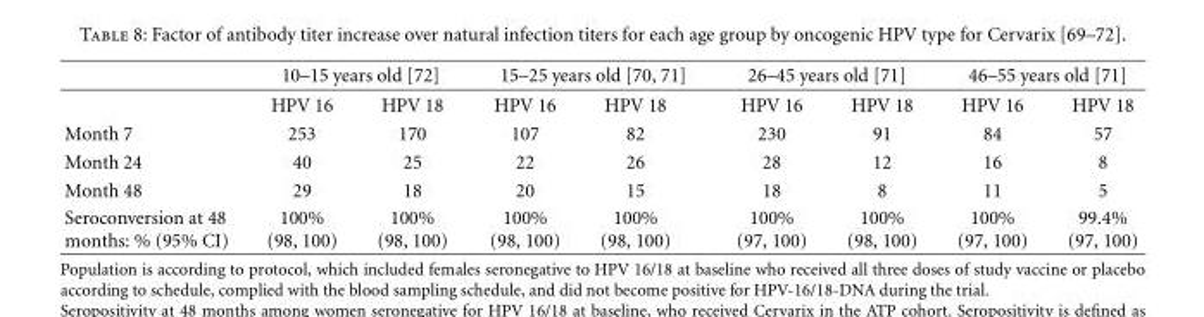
<table><thead><tr><td rowspan="2"></td><td colspan="2">10–15 years old [72]</td><td colspan="2">15–25 years old [70, 71]</td><td colspan="2">26–45 years old [71]</td><td colspan="2">46–55 years old [71]</td></tr><tr><td>HPV 16</td><td>HPV 18</td><td>HPV 16</td><td>HPV 18</td><td>HPV 16</td><td>HPV 18</td><td>HPV 16</td><td>HPV 18</td></tr></thead><tbody><tr><td>Month 7</td><td>253</td><td>170</td><td>107</td><td>82</td><td>230</td><td>91</td><td>84</td><td>57</td></tr><tr><td>Month 24</td><td>40</td><td>25</td><td>22</td><td>26</td><td>28</td><td>12</td><td>16</td><td>8</td></tr><tr><td>Month 48</td><td>29</td><td>18</td><td>20</td><td>15</td><td>18</td><td>8</td><td>11</td><td>5</td></tr><tr><td>Seroconversion at 48 months: % (95% CI)</td><td>100% (98, 100)</td><td>100% (98, 100)</td><td>100% (98, 100)</td><td>100% (98, 100)</td><td>100% (97, 100)</td><td>100% (98, 100)</td><td>100% (97, 100)</td><td>99.4% (97, 100)</td></tr></tbody></table>